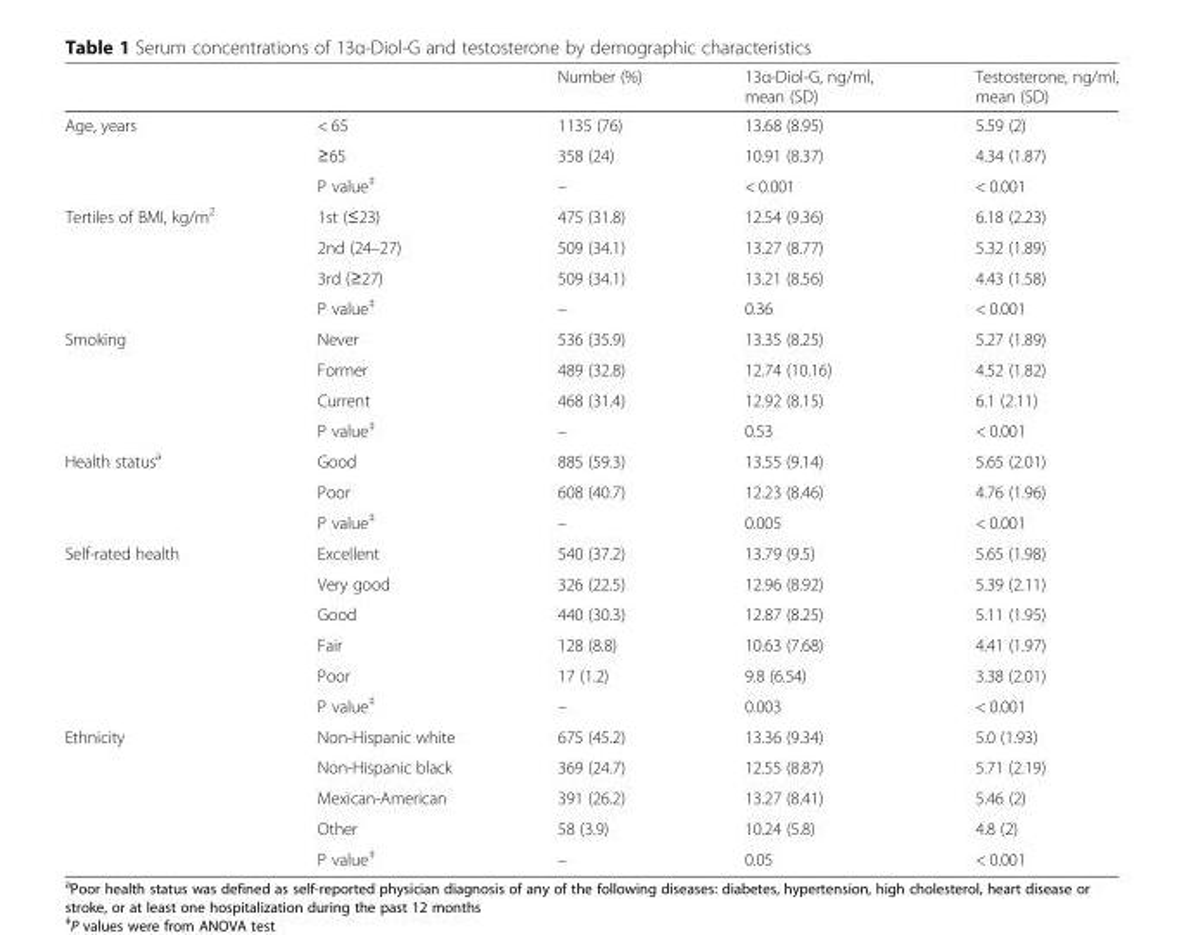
<table><thead><tr><td></td><td></td><td>Number (%)</td><td>13α-Diol-G, ng/ml, mean (SD)</td><td>Testosterone, ng/ml, mean (SD)</td></tr></thead><tbody><tr><td rowspan="3">Age, years</td><td>&lt; 65</td><td>1135 (76)</td><td>13.68 (8.95)</td><td>5.59 (2)</td></tr><tr><td>≥65</td><td>358 (24)</td><td>10.91 (8.37)</td><td>4.34 (1.87)</td></tr><tr><td>P value<sup>‡</sup></td><td>–</td><td>&lt; 0.001</td><td>&lt; 0.001</td></tr><tr><td rowspan="4">Tertiles of BMI, kg/m<sup>2</sup></td><td>1st (≤23)</td><td>475 (31.8)</td><td>12.54 (9.36)</td><td>6.18 (2.23)</td></tr><tr><td>2nd (24–27)</td><td>509 (34.1)</td><td>13.27 (8.77)</td><td>5.32 (1.89)</td></tr><tr><td>3rd (≥27)</td><td>509 (34.1)</td><td>13.21 (8.56)</td><td>4.43 (1.58)</td></tr><tr><td>P value<sup>‡</sup></td><td>–</td><td>0.36</td><td>&lt; 0.001</td></tr><tr><td rowspan="4">Smoking</td><td>Never</td><td>536 (35.9)</td><td>13.35 (8.25)</td><td>5.27 (1.89)</td></tr><tr><td>Former</td><td>489 (32.8)</td><td>12.74 (10.16)</td><td>4.52 (1.82)</td></tr><tr><td>Current</td><td>468 (31.4)</td><td>12.92 (8.15)</td><td>6.1 (2.11)</td></tr><tr><td>P value<sup>‡</sup></td><td>–</td><td>0.53</td><td>&lt; 0.001</td></tr><tr><td rowspan="3">Health status<sup>a</sup></td><td>Good</td><td>885 (59.3)</td><td>13.55 (9.14)</td><td>5.65 (2.01)</td></tr><tr><td>Poor</td><td>608 (40.7)</td><td>12.23 (8.46)</td><td>4.76 (1.96)</td></tr><tr><td>P value<sup>‡</sup></td><td>–</td><td>0.005</td><td>&lt; 0.001</td></tr><tr><td rowspan="6">Self-rated health</td><td>Excellent</td><td>540 (37.2)</td><td>13.79 (9.5)</td><td>5.65 (1.98)</td></tr><tr><td>Very good</td><td>326 (22.5)</td><td>12.96 (8.92)</td><td>5.39 (2.11)</td></tr><tr><td>Good</td><td>440 (30.3)</td><td>12.87 (8.25)</td><td>5.11 (1.95)</td></tr><tr><td>Fair</td><td>128 (8.8)</td><td>10.63 (7.68)</td><td>4.41 (1.97)</td></tr><tr><td>Poor</td><td>17 (1.2)</td><td>9.8 (6.54)</td><td>3.38 (2.01)</td></tr><tr><td>P value<sup>‡</sup></td><td>–</td><td>0.003</td><td>&lt; 0.001</td></tr><tr><td rowspan="5">Ethnicity</td><td>Non-Hispanic white</td><td>675 (45.2)</td><td>13.36 (9.34)</td><td>5.0 (1.93)</td></tr><tr><td>Non-Hispanic black</td><td>369 (24.7)</td><td>12.55 (8.87)</td><td>5.71 (2.19)</td></tr><tr><td>Mexican-American</td><td>391 (26.2)</td><td>13.27 (8.41)</td><td>5.46 (2)</td></tr><tr><td>Other</td><td>58 (3.9)</td><td>10.24 (5.8)</td><td>4.8 (2)</td></tr><tr><td>P value<sup>‡</sup></td><td>–</td><td>0.05</td><td>&lt; 0.001</td></tr></tbody></table>